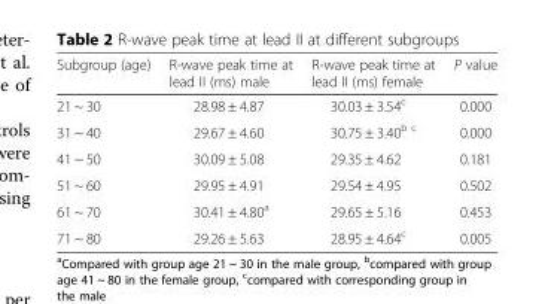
<table><thead><tr><td>Subgroup (age)</td><td>R-wave peak time at lead II (ms) male</td><td>R-wave peak time at lead II (ms) female</td><td>P value</td></tr></thead><tbody><tr><td>21 ~ 30</td><td>28.98 ± 4.87</td><td>30.03 ± 3.54<sup>c</sup></td><td>0.000</td></tr><tr><td>31 ~ 40</td><td>29.67 ± 4.60</td><td>30.75 ± 3.40<sup>b c</sup></td><td>0.000</td></tr><tr><td>41 ~ 50</td><td>30.09 ± 5.08</td><td>29.35 ± 4.62</td><td>0.181</td></tr><tr><td>51 ~ 60</td><td>29.95 ± 4.91</td><td>29.54 ± 4.95</td><td>0.502</td></tr><tr><td>61 ~ 70</td><td>30.41 ± 4.80<sup>a</sup></td><td>29.65 ± 5.16</td><td>0.453</td></tr><tr><td>71 ~ 80</td><td>29.26 ± 5.63</td><td>28.95 ± 4.64<sup>c</sup></td><td>0.005</td></tr></tbody></table>